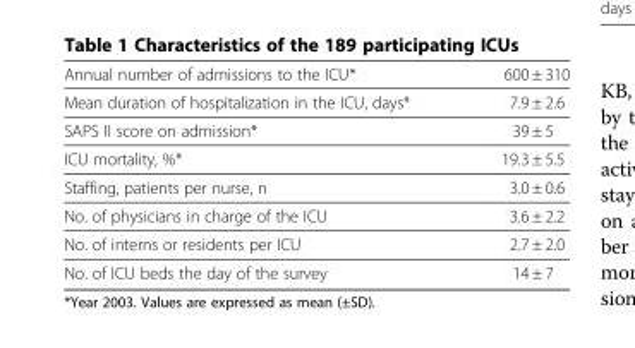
<table><thead><tr><td>Annual number of admissions to the ICU*</td><td>600 ± 310</td></tr></thead><tbody><tr><td>Mean duration of hospitalization in the ICU, days*</td><td>7.9 ± 2.6</td></tr><tr><td>SAPS II score on admission*</td><td>39 ± 5</td></tr><tr><td>ICU mortality, %*</td><td>19.3 ± 5.5</td></tr><tr><td>Staffing, patients per nurse, n</td><td>3.0 ± 0.6</td></tr><tr><td>No. of physicians in charge of the ICU</td><td>3.6 ± 2.2</td></tr><tr><td>No. of interns or residents per ICU</td><td>2.7 ± 2.0</td></tr><tr><td>No. of ICU beds the day of the survey</td><td>14 ± 7</td></tr></tbody></table>